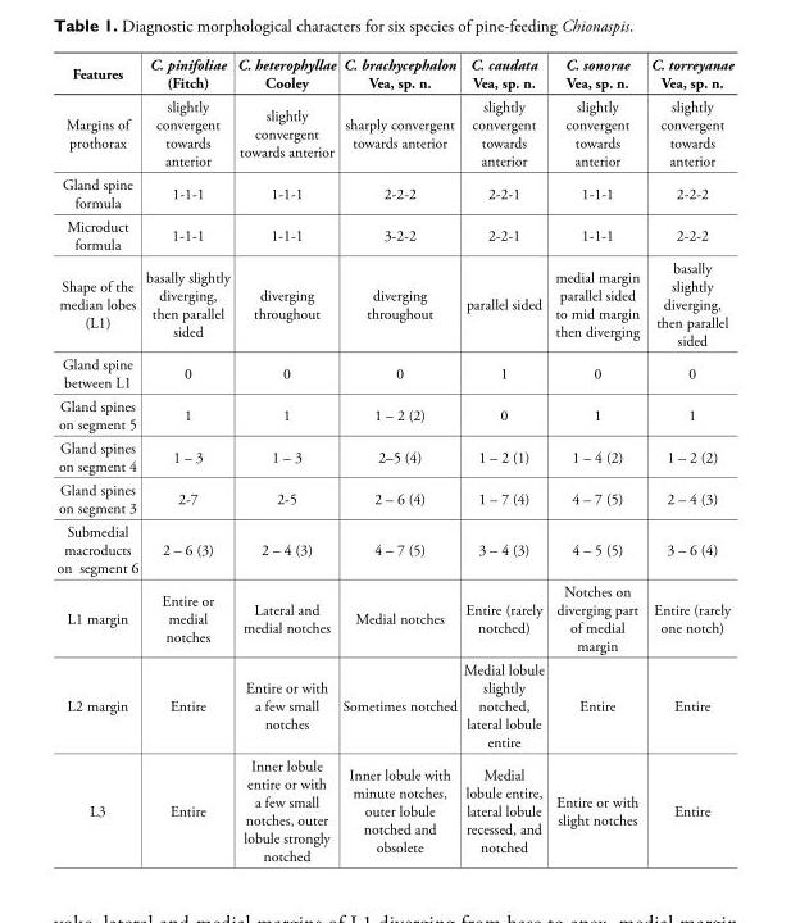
<table><tbody><tr><td>Features</td><td>C. pinifoliae (Fitch)</td><td>C. heterophyllae Cooley</td><td>C. brachycephalon Vea, sp. n.</td><td>C. caudata Vea, sp. n.</td><td>C. sonorae Vea, sp. n.</td><td>C. torreyanae Vea, sp. n.</td></tr><tr><td>Margins of prothorax</td><td>slightly convergent towards anterior</td><td>slightly convergent towards anterior</td><td>sharply convergent towards anterior</td><td>slightly convergent towards anterior</td><td>slightly convergent towards anterior</td><td>slightly convergent towards anterior</td></tr><tr><td>Gland spine formula</td><td>1-1-1</td><td>1-1-1</td><td>2-2-2</td><td>2-2-1</td><td>1-1-1</td><td>2-2-2</td></tr><tr><td>Microduct formula</td><td>1-1-1</td><td>1-1-1</td><td>3-2-2</td><td>2-2-1</td><td>1-1-1</td><td>2-2-2</td></tr><tr><td>Shape of the median lobes (L1)</td><td>basally slightly diverging, then parallel sided</td><td>diverging throughout</td><td>diverging throughout</td><td>parallel sided</td><td>medial margin parallel sided to mid margin then diverging</td><td>basally slightly diverging, then parallel sided</td></tr><tr><td>Gland spine between L1</td><td>0</td><td>0</td><td>0</td><td>1</td><td>0</td><td>0</td></tr><tr><td>Gland spines on segment 5</td><td>1</td><td>1</td><td>1 – 2 (2)</td><td>0</td><td>1</td><td>1</td></tr><tr><td>Gland spines on segment 4</td><td>1 – 3</td><td>1 – 3</td><td>2–5 (4)</td><td>1 – 2 (1)</td><td>1 – 4 (2)</td><td>1 – 2 (2)</td></tr><tr><td>Gland spines on segment 3</td><td>2-7</td><td>2-5</td><td>2 – 6 (4)</td><td>1 – 7 (4)</td><td>4 – 7 (5)</td><td>2 – 4 (3)</td></tr><tr><td>Submedial macroducts on segment 6</td><td>2 – 6 (3)</td><td>2 – 4 (3)</td><td>4 – 7 (5)</td><td>3 – 4 (3)</td><td>4 – 5 (5)</td><td>3 – 6 (4)</td></tr><tr><td>L1 margin</td><td>Entire or medial notches</td><td>Lateral and medial notches</td><td>Medial notches</td><td>Entire (rarely notched)</td><td>Notches on diverging part of medial margin</td><td>Entire (rarely one notch)</td></tr><tr><td>L2 margin</td><td>Entire</td><td>Entire or with a few small notches</td><td>Sometimes notched</td><td>Medial lobule slightly notched, lateral lobule entire</td><td>Entire</td><td>Entire</td></tr><tr><td>L3</td><td>Entire</td><td>Inner lobule entire or with a few small notches, outer lobule strongly notched</td><td>Inner lobule with minute notches, outer lobule notched and obsolete</td><td>Medial lobule entire, lateral lobule recessed, and notched</td><td>Entire or with slight notches</td><td>Entire</td></tr></tbody></table>